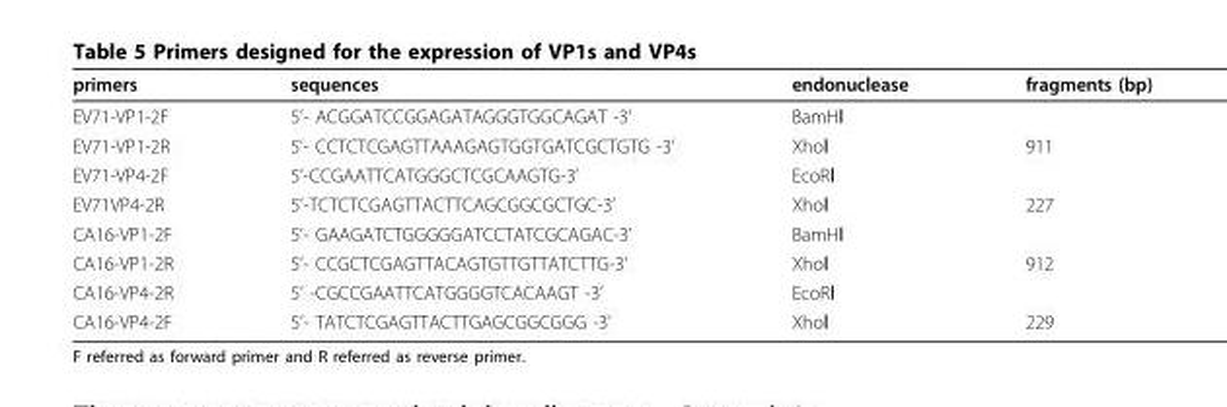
<table><thead><tr><td>primers</td><td>sequences</td><td>endonuclease</td><td>fragments (bp)</td></tr></thead><tbody><tr><td>EV71-VP1-2F</td><td>5’- ACGGATCCGGAGATAGGGTGGCAGAT -3’</td><td>BamHⅠ</td><td></td></tr><tr><td>EV71-VP1-2R</td><td>5’- CCTCTCGAGTTAAAGAGTGGTGATCGCTGTG -3’</td><td>XhoⅠ</td><td>911</td></tr><tr><td>EV71-VP4-2F</td><td>5’-CCGAATTCATGGGCTCGCAAGTG-3’</td><td>EcoRⅠ</td><td></td></tr><tr><td>EV71VP4-2R</td><td>5’-TCTCTCGAGTTACTTCAGCGGCGCTGC-3’</td><td>XhoⅠ</td><td>227</td></tr><tr><td>CA16-VP1-2F</td><td>5’- GAAGATCTGGGGGATCCTATCGCAGAC-3’</td><td>BamHⅠ</td><td></td></tr><tr><td>CA16-VP1-2R</td><td>5’- CCGCTCGAGTTACAGTGTTGTTATCTTG-3’</td><td>XhoⅠ</td><td>912</td></tr><tr><td>CA16-VP4-2R</td><td>5’ -CGCCGAATTCATGGGGTCACAAGT -3’</td><td>EcoRⅠ</td><td></td></tr><tr><td>CA16-VP4-2F</td><td>5’- TATCTCGAGTTACTTGAGCGGCGGG -3’</td><td>XhoⅠ</td><td>229</td></tr></tbody></table>